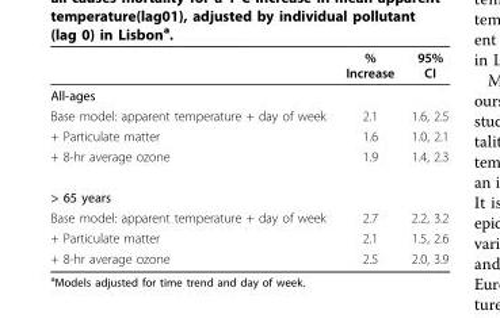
<table><thead><tr><td></td><td>% Increase</td><td>95% CI</td></tr></thead><tbody><tr><td colspan="3">All-ages</td></tr><tr><td>Base model: apparent temperature + day of week</td><td>2.1</td><td>1.6, 2.5</td></tr><tr><td>+ Particulate matter</td><td>1.6</td><td>1.0, 2.1</td></tr><tr><td>+ 8-hr average ozone</td><td>1.9</td><td>1.4, 2.3</td></tr><tr><td colspan="3">&gt; 65 years</td></tr><tr><td>Base model: apparent temperature + day of week</td><td>2.7</td><td>2.2, 3.2</td></tr><tr><td>+ Particulate matter</td><td>2.1</td><td>1.5, 2.6</td></tr><tr><td>+ 8-hr average ozone</td><td>2.5</td><td>2.0, 3.9</td></tr></tbody></table>